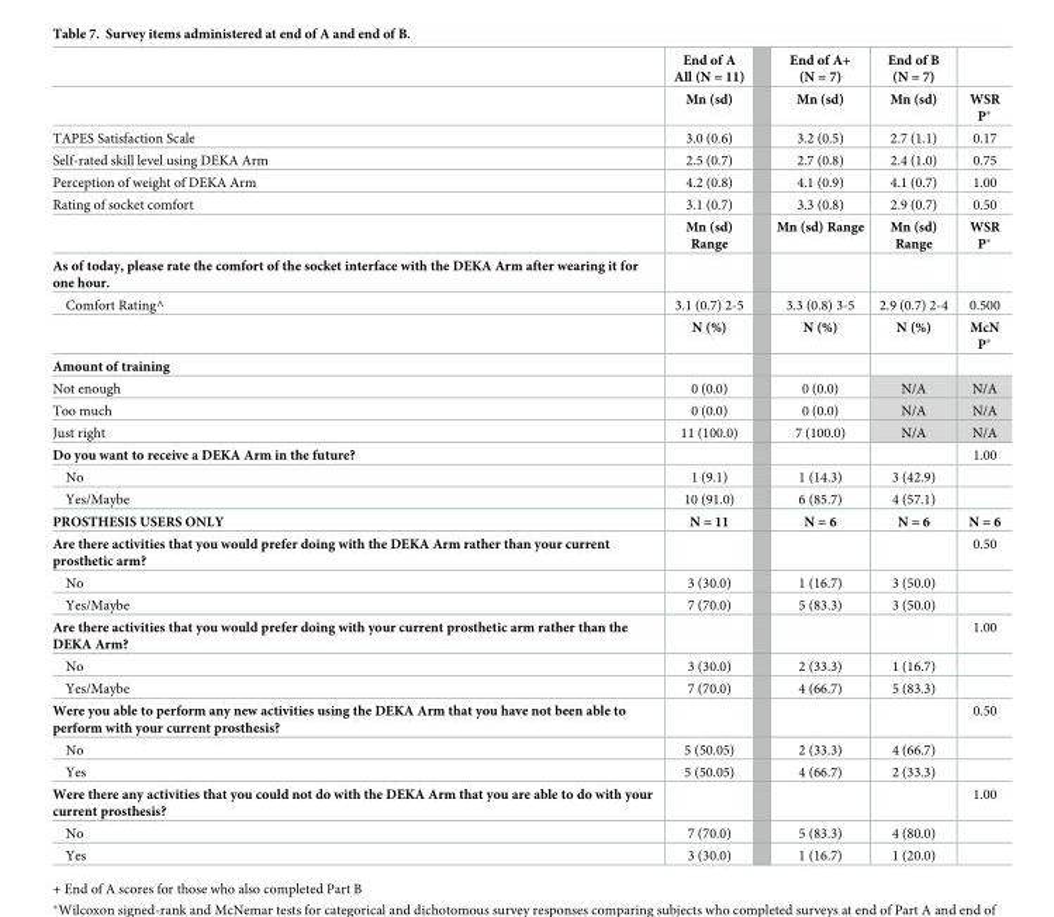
<table><thead><tr><td rowspan="2"></td><td rowspan="2">End of A All (N = 11) Mn (sd)</td><td rowspan="2">End of A+ (N = 7) Mn (sd)</td><td rowspan="2">End of B (N = 7) Mn (sd)</td><td rowspan="2">WSR P*</td></tr><tr></tr></thead><tbody><tr><td>TAPES Satisfaction Scale</td><td>3.0 (0.6)</td><td>3.2 (0.5)</td><td>2.7 (1.1)</td><td>0.17</td></tr><tr><td>Self-rated skill level using DEKA Arm</td><td>2.5 (0.7)</td><td>2.7 (0.8)</td><td>2.4 (1.0)</td><td>0.75</td></tr><tr><td>Perception of weight of DEKA Arm</td><td>4.2 (0.8)</td><td>4.1 (0.9)</td><td>4.1 (0.7)</td><td>1.00</td></tr><tr><td rowspan="2">Rating of socket comfort</td><td>3.1 (0.7)</td><td>3.3 (0.8)</td><td>2.9 (0.7)</td><td>0.50</td></tr><tr><td>Mn (sd) Range</td><td>Mn (sd) Range</td><td>Mn (sd) Range</td><td>WSR P*</td></tr><tr><td colspan="5">As of today, please rate the comfort of the socket interface with the DEKA Arm after wearing it for one hour.</td></tr><tr><td rowspan="2">Comfort Rating^</td><td>3.1 (0.7) 2-5</td><td>3.3 (0.8) 3-5</td><td>2.9 (0.7) 2-4</td><td>0.500</td></tr><tr><td>N (%)</td><td>N (%)</td><td>N (%)</td><td>McN P*</td></tr><tr><td colspan="5">Amount of training</td></tr><tr><td>Not enough</td><td>0 (0.0)</td><td>0 (0.0)</td><td>N/A</td><td>N/A</td></tr><tr><td>Too much</td><td>0 (0.0)</td><td>0 (0.0)</td><td>N/A</td><td>N/A</td></tr><tr><td>Just right</td><td>11 (100.0)</td><td>7 (100.0)</td><td>N/A</td><td>N/A</td></tr><tr><td>Do you want to receive a DEKA Arm in the future?</td><td></td><td></td><td></td><td>1.00</td></tr><tr><td>No</td><td>1 (9.1)</td><td>1 (14.3)</td><td>3 (42.9)</td><td></td></tr><tr><td>Yes/Maybe</td><td>10 (91.0)</td><td>6 (85.7)</td><td>4 (57.1)</td><td></td></tr><tr><td>PROSTHESIS USERS ONLY</td><td>N = 11</td><td>N = 6</td><td>N = 6</td><td>N = 6</td></tr><tr><td>Are there activities that you would prefer doing with the DEKA Arm rather than your current prosthetic arm?</td><td></td><td></td><td></td><td>0.50</td></tr><tr><td>No</td><td>3 (30.0)</td><td>1 (16.7)</td><td>3 (50.0)</td><td></td></tr><tr><td>Yes/Maybe</td><td>7 (70.0)</td><td>5 (83.3)</td><td>3 (50.0)</td><td></td></tr><tr><td>Are there activities that you would prefer doing with your current prosthetic arm rather than the DEKA Arm?</td><td></td><td></td><td></td><td>1.00</td></tr><tr><td>No</td><td>3 (30.0)</td><td>2 (33.3)</td><td>1 (16.7)</td><td></td></tr><tr><td>Yes/Maybe</td><td>7 (70.0)</td><td>4 (66.7)</td><td>5 (83.3)</td><td></td></tr><tr><td>Were you able to perform any new activities using the DEKA Arm that you have not been able to perform with your current prosthesis?</td><td></td><td></td><td></td><td>0.50</td></tr><tr><td>No</td><td>5 (50.05)</td><td>2 (33.3)</td><td>4 (66.7)</td><td></td></tr><tr><td>Yes</td><td>5 (50.05)</td><td>4 (66.7)</td><td>2 (33.3)</td><td></td></tr><tr><td>Were there any activities that you could not do with the DEKA Arm that you are able to do with your current prosthesis?</td><td></td><td></td><td></td><td>1.00</td></tr><tr><td>No</td><td>7 (70.0)</td><td>5 (83.3)</td><td>4 (80.0)</td><td></td></tr><tr><td>Yes</td><td>3 (30.0)</td><td>1 (16.7)</td><td>1 (20.0)</td><td></td></tr></tbody></table>